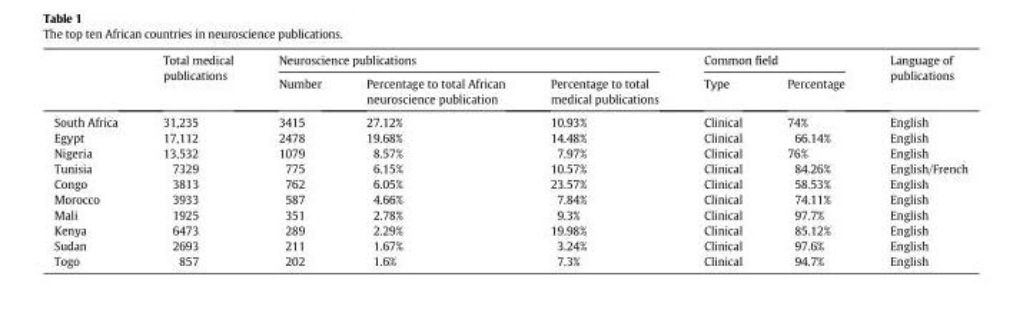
<table><thead><tr><td rowspan="2"></td><td rowspan="2">Total medical publications</td><td colspan="3">Neuroscience publications</td><td colspan="2">Common field</td><td rowspan="2">Language of publications</td></tr><tr><td>Number</td><td>Percentage to total African neuroscience publication</td><td>Percentage to total medical publications</td><td>Type</td><td>Percentage</td></tr></thead><tbody><tr><td>South Africa</td><td>31,235</td><td>3415</td><td>27.12%</td><td>10.93%</td><td>Clinical</td><td>74%</td><td>English</td></tr><tr><td>Egypt</td><td>17,112</td><td>2478</td><td>19.68%</td><td>14.48%</td><td>Clinical</td><td>66.14%</td><td>English</td></tr><tr><td>Nigeria</td><td>13,532</td><td>1079</td><td>8.57%</td><td>7.97%</td><td>Clinical</td><td>76%</td><td>English</td></tr><tr><td>Tunisia</td><td>7329</td><td>775</td><td>6.15%</td><td>10.57%</td><td>Clinical</td><td>84.26%</td><td>English/French</td></tr><tr><td>Congo</td><td>3813</td><td>762</td><td>6.05%</td><td>23.57%</td><td>Clinical</td><td>58.53%</td><td>English</td></tr><tr><td>Morocco</td><td>3933</td><td>587</td><td>4.66%</td><td>7.84%</td><td>Clinical</td><td>74.11%</td><td>English</td></tr><tr><td>Mali</td><td>1925</td><td>351</td><td>2.78%</td><td>9.3%</td><td>Clinical</td><td>97.7%</td><td>English</td></tr><tr><td>Kenya</td><td>6473</td><td>289</td><td>2.29%</td><td>19.98%</td><td>Clinical</td><td>85.12%</td><td>English</td></tr><tr><td>Sudan</td><td>2693</td><td>211</td><td>1.67%</td><td>3.24%</td><td>Clinical</td><td>97.6%</td><td>English</td></tr><tr><td>Togo</td><td>857</td><td>202</td><td>1.6%</td><td>7.3%</td><td>Clinical</td><td>94.7%</td><td>English</td></tr></tbody></table>